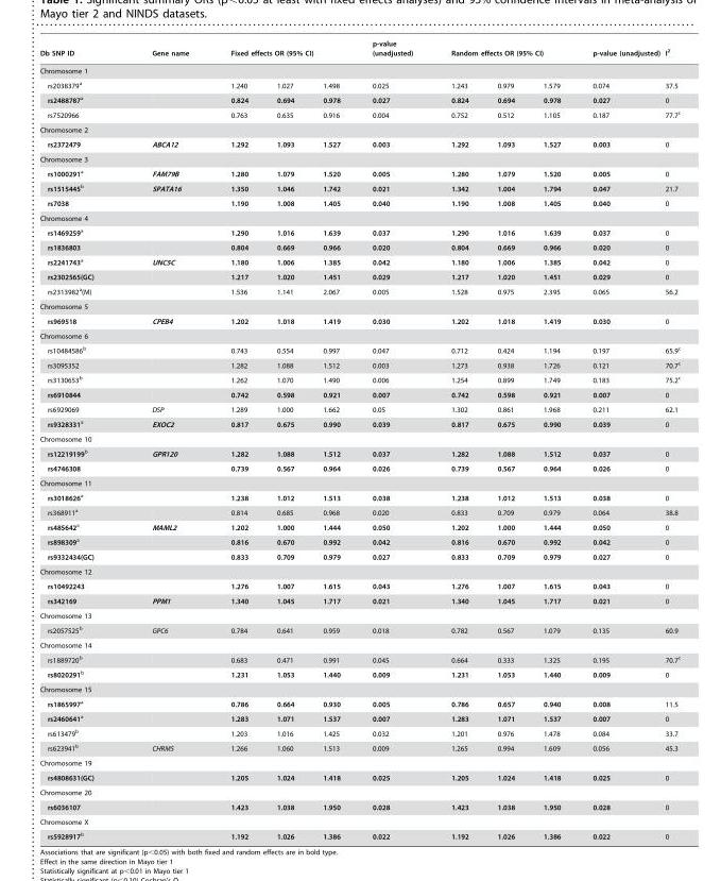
<table><thead><tr><td>Db SNP ID</td><td>Gene name</td><td colspan="3">Fixed effects OR (95% CI)</td><td>p-value (unadjusted)</td><td colspan="3">Random effects OR (95% CI)</td><td>p-value (unadjusted)</td><td>I<sup>2</sup></td></tr><tr><td colspan="11">Chromosome 1</td></tr><tr><td>rs2038379<sup>a</sup></td><td></td><td>1.240</td><td>1.027</td><td>1.498</td><td>0.025</td><td>1.243</td><td>0.979</td><td>1.579</td><td>0.074</td><td>37.5</td></tr></thead><tbody><tr><td>rs2488787a</td><td></td><td>0.824</td><td>0.694</td><td>0.978</td><td>0.027</td><td>0.824</td><td>0.694</td><td>0.978</td><td>0.027</td><td>0</td></tr><tr><td>rs7520966</td><td></td><td>0.763</td><td>0.635</td><td>0.916</td><td>0.004</td><td>0.752</td><td>0.512</td><td>1.105</td><td>0.187</td><td>77.7<sup>c</sup></td></tr><tr><td colspan="11">Chromosome 2</td></tr><tr><td>rs2372479</td><td>ABCA12</td><td>1.292</td><td>1.093</td><td>1.527</td><td>0.003</td><td>1.292</td><td>1.093</td><td>1.527</td><td>0.003</td><td>0</td></tr><tr><td colspan="11">Chromosome 3</td></tr><tr><td>rs1000291a</td><td>FAM79B</td><td>1.280</td><td>1.079</td><td>1.520</td><td>0.005</td><td>1.280</td><td>1.079</td><td>1.520</td><td>0.005</td><td>0</td></tr><tr><td>rs1515445b</td><td>SPATA16</td><td>1.350</td><td>1.046</td><td>1.742</td><td>0.021</td><td>1.342</td><td>1.004</td><td>1.794</td><td>0.047</td><td>21.7</td></tr><tr><td>rs7038</td><td></td><td>1.190</td><td>1.008</td><td>1.405</td><td>0.040</td><td>1.190</td><td>1.008</td><td>1.405</td><td>0.040</td><td>0</td></tr><tr><td colspan="11">Chromosome 4</td></tr><tr><td>rs1469259a</td><td></td><td>1.290</td><td>1.016</td><td>1.639</td><td>0.037</td><td>1.290</td><td>1.016</td><td>1.639</td><td>0.037</td><td>0</td></tr><tr><td>rs1836803</td><td></td><td>0.804</td><td>0.669</td><td>0.966</td><td>0.020</td><td>0.804</td><td>0.669</td><td>0.966</td><td>0.020</td><td>0</td></tr><tr><td>rs2241743a</td><td>UNC5C</td><td>1.180</td><td>1.006</td><td>1.385</td><td>0.042</td><td>1.180</td><td>1.006</td><td>1.385</td><td>0.042</td><td>0</td></tr><tr><td>rs2302565(GC)</td><td></td><td>1.217</td><td>1.020</td><td>1.451</td><td>0.029</td><td>1.217</td><td>1.020</td><td>1.451</td><td>0.029</td><td>0</td></tr><tr><td>rs2313982<sup>a</sup>(M)</td><td></td><td>1.536</td><td>1.141</td><td>2.067</td><td>0.005</td><td>1.528</td><td>0.975</td><td>2.395</td><td>0.065</td><td>56.2</td></tr><tr><td colspan="11">Chromosome 5</td></tr><tr><td>rs969518</td><td>CPEB4</td><td>1.202</td><td>1.018</td><td>1.419</td><td>0.030</td><td>1.202</td><td>1.018</td><td>1.419</td><td>0.030</td><td>0</td></tr><tr><td colspan="11">Chromosome 6</td></tr><tr><td>rs10484586<sup>b</sup></td><td></td><td>0.743</td><td>0.554</td><td>0.997</td><td>0.047</td><td>0.712</td><td>0.424</td><td>1.194</td><td>0.197</td><td>65.9<sup>c</sup></td></tr><tr><td>rs3095352</td><td></td><td>1.282</td><td>1.088</td><td>1.512</td><td>0.003</td><td>1.273</td><td>0.938</td><td>1.726</td><td>0.121</td><td>70.7<sup>c</sup></td></tr><tr><td>rs3130653<sup>b</sup></td><td></td><td>1.262</td><td>1.070</td><td>1.490</td><td>0.006</td><td>1.254</td><td>0.899</td><td>1.749</td><td>0.183</td><td>75.2<sup>c</sup></td></tr><tr><td>rs6910844</td><td></td><td>0.742</td><td>0.598</td><td>0.921</td><td>0.007</td><td>0.742</td><td>0.598</td><td>0.921</td><td>0.007</td><td>0</td></tr><tr><td>rs6929069</td><td>DSP</td><td>1.289</td><td>1.000</td><td>1.662</td><td>0.05</td><td>1.302</td><td>0.861</td><td>1.968</td><td>0.211</td><td>62.1</td></tr><tr><td>rs9328331a</td><td>EXOC2</td><td>0.817</td><td>0.675</td><td>0.990</td><td>0.039</td><td>0.817</td><td>0.675</td><td>0.990</td><td>0.039</td><td>0</td></tr><tr><td colspan="11">Chromosome 10</td></tr><tr><td>rs12219199b</td><td>GPR120</td><td>1.282</td><td>1.088</td><td>1.512</td><td>0.037</td><td>1.282</td><td>1.088</td><td>1.512</td><td>0.037</td><td>0</td></tr><tr><td>rs4746308</td><td></td><td>0.739</td><td>0.567</td><td>0.964</td><td>0.026</td><td>0.739</td><td>0.567</td><td>0.964</td><td>0.026</td><td>0</td></tr><tr><td colspan="11">Chromosome 11</td></tr><tr><td>rs3018626a</td><td></td><td>1.238</td><td>1.012</td><td>1.513</td><td>0.038</td><td>1.238</td><td>1.012</td><td>1.513</td><td>0.038</td><td>0</td></tr><tr><td>rs368911<sup>a</sup></td><td></td><td>0.814</td><td>0.685</td><td>0.968</td><td>0.020</td><td>0.833</td><td>0.709</td><td>0.979</td><td>0.064</td><td>38.8</td></tr><tr><td>rs485642a</td><td>MAML2</td><td>1.202</td><td>1.000</td><td>1.444</td><td>0.050</td><td>1.202</td><td>1.000</td><td>1.444</td><td>0.050</td><td>0</td></tr><tr><td>rs898309a</td><td></td><td>0.816</td><td>0.670</td><td>0.992</td><td>0.042</td><td>0.816</td><td>0.670</td><td>0.992</td><td>0.042</td><td>0</td></tr><tr><td>rs9332434(GC)</td><td></td><td>0.833</td><td>0.709</td><td>0.979</td><td>0.027</td><td>0.833</td><td>0.709</td><td>0.979</td><td>0.027</td><td>0</td></tr><tr><td colspan="11">Chromosome 12</td></tr><tr><td>rs10492243</td><td></td><td>1.276</td><td>1.007</td><td>1.615</td><td>0.043</td><td>1.276</td><td>1.007</td><td>1.615</td><td>0.043</td><td>0</td></tr><tr><td>rs342169</td><td>PPM1</td><td>1.340</td><td>1.045</td><td>1.717</td><td>0.021</td><td>1.340</td><td>1.045</td><td>1.717</td><td>0.021</td><td>0</td></tr><tr><td colspan="11">Chromosome 13</td></tr><tr><td>rs2057525<sup>b</sup></td><td>GPC6</td><td>0.784</td><td>0.641</td><td>0.959</td><td>0.018</td><td>0.782</td><td>0.567</td><td>1.079</td><td>0.135</td><td>60.9</td></tr><tr><td colspan="11">Chromosome 14</td></tr><tr><td>rs1889720<sup>b</sup></td><td></td><td>0.683</td><td>0.471</td><td>0.991</td><td>0.045</td><td>0.664</td><td>0.333</td><td>1.325</td><td>0.195</td><td>70.7<sup>c</sup></td></tr><tr><td>rs8020291b</td><td></td><td>1.231</td><td>1.053</td><td>1.440</td><td>0.009</td><td>1.231</td><td>1.053</td><td>1.440</td><td>0.009</td><td>0</td></tr><tr><td colspan="11">Chromosome 15</td></tr><tr><td>rs1865997a</td><td></td><td>0.786</td><td>0.664</td><td>0.930</td><td>0.005</td><td>0.786</td><td>0.657</td><td>0.940</td><td>0.008</td><td>11.5</td></tr><tr><td>rs2460641a</td><td></td><td>1.283</td><td>1.071</td><td>1.537</td><td>0.007</td><td>1.283</td><td>1.071</td><td>1.537</td><td>0.007</td><td>0</td></tr><tr><td>rs613479<sup>b</sup></td><td></td><td>1.203</td><td>1.016</td><td>1.425</td><td>0.032</td><td>1.201</td><td>0.976</td><td>1.478</td><td>0.084</td><td>33.7</td></tr><tr><td>rs623941<sup>b</sup></td><td>CHRM5</td><td>1.266</td><td>1.060</td><td>1.513</td><td>0.009</td><td>1.265</td><td>0.994</td><td>1.609</td><td>0.056</td><td>45.3</td></tr><tr><td colspan="11">Chromosome 19</td></tr><tr><td>rs4808631(GC)</td><td></td><td>1.205</td><td>1.024</td><td>1.418</td><td>0.025</td><td>1.205</td><td>1.024</td><td>1.418</td><td>0.025</td><td>0</td></tr><tr><td colspan="11">Chromosome 20</td></tr><tr><td>rs6036107</td><td></td><td>1.423</td><td>1.038</td><td>1.950</td><td>0.028</td><td>1.423</td><td>1.038</td><td>1.950</td><td>0.028</td><td>0</td></tr><tr><td colspan="11">Chromosome X</td></tr><tr><td>rs5928917b</td><td></td><td>1.192</td><td>1.026</td><td>1.386</td><td>0.022</td><td>1.192</td><td>1.026</td><td>1.386</td><td>0.022</td><td>0</td></tr></tbody></table>